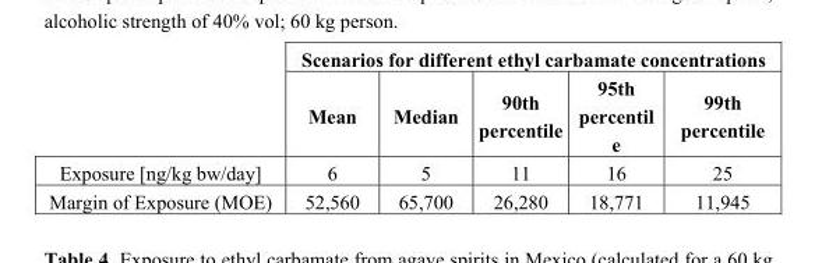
<table><thead><tr><td rowspan="2"></td><td colspan="5">Scenarios for different ethyl carbamate concentrations</td></tr><tr><td>Mean</td><td>Median</td><td>90th percentile</td><td>95th percentil e</td><td>99th percentile</td></tr></thead><tbody><tr><td>Exposure [ng/kg bw/day]</td><td>6</td><td>5</td><td>11</td><td>16</td><td>25</td></tr><tr><td>Margin of Exposure (MOE)</td><td>52,560</td><td>65,700</td><td>26,280</td><td>18,771</td><td>11,945</td></tr></tbody></table>